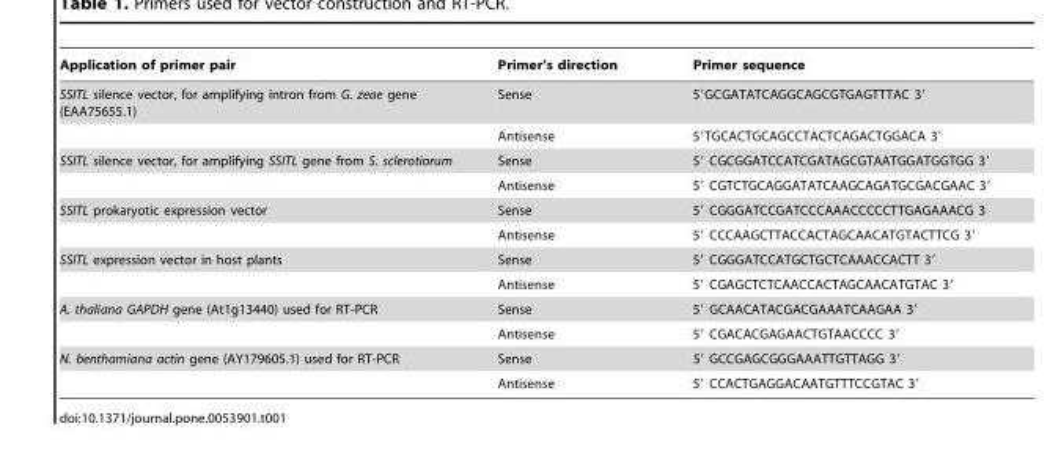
<table><thead><tr><td>Application of primer pair</td><td>Primer’s direction</td><td>Primer sequence</td></tr></thead><tbody><tr><td rowspan="2">SSITL silence vector, for amplifying intron from G. zeae gene (EAA75655.1)</td><td>Sense</td><td>5′GCGATATCAGGCAGCGTGAGTTTAC 3′</td></tr><tr><td>Antisense</td><td>5′TGCACTGCAGCCTACTCAGACTGGACA 3′</td></tr><tr><td rowspan="2">SSITL silence vector, for amplifying SSITL gene from S. sclerotiorum</td><td>Sense</td><td>5′ CGCGGATCCATCGATAGCGTAATGGATGGTGG 3′</td></tr><tr><td>Antisense</td><td>5′ CGTCTGCAGGATATCAAGCAGATGCGACGAAC 3′</td></tr><tr><td rowspan="2">SSITL prokaryotic expression vector</td><td>Sense</td><td>5′ CGGGATCCGATCCCAAACCCCCTTGAGAAACG 3</td></tr><tr><td>Antisense</td><td>5′ CCCAAGCTTACCACTAGCAACATGTACTTCG 3′</td></tr><tr><td rowspan="2">SSITL expression vector in host plants</td><td>Sense</td><td>5′ CGGGATCCATGCTGCTCAAACCACTT 3′</td></tr><tr><td>Antisense</td><td>5′ CGAGCTCTCAACCACTAGCAACATGTAC 3′</td></tr><tr><td rowspan="2">A. thaliana GAPDH gene (At1g13440) used for RT-PCR</td><td>Sense</td><td>5′ GCAACATACGACGAAATCAAGAA 3′</td></tr><tr><td>Antisense</td><td>5′ CGACACGAGAACTGTAACCCC 3′</td></tr><tr><td rowspan="2">N. benthamiana actin gene (AY179605.1) used for RT-PCR</td><td>Sense</td><td>5′ GCCGAGCGGGAAATTGTTAGG 3′</td></tr><tr><td>Antisense</td><td>5′ CCACTGAGGACAATGTTTCCGTAC 3′</td></tr></tbody></table>